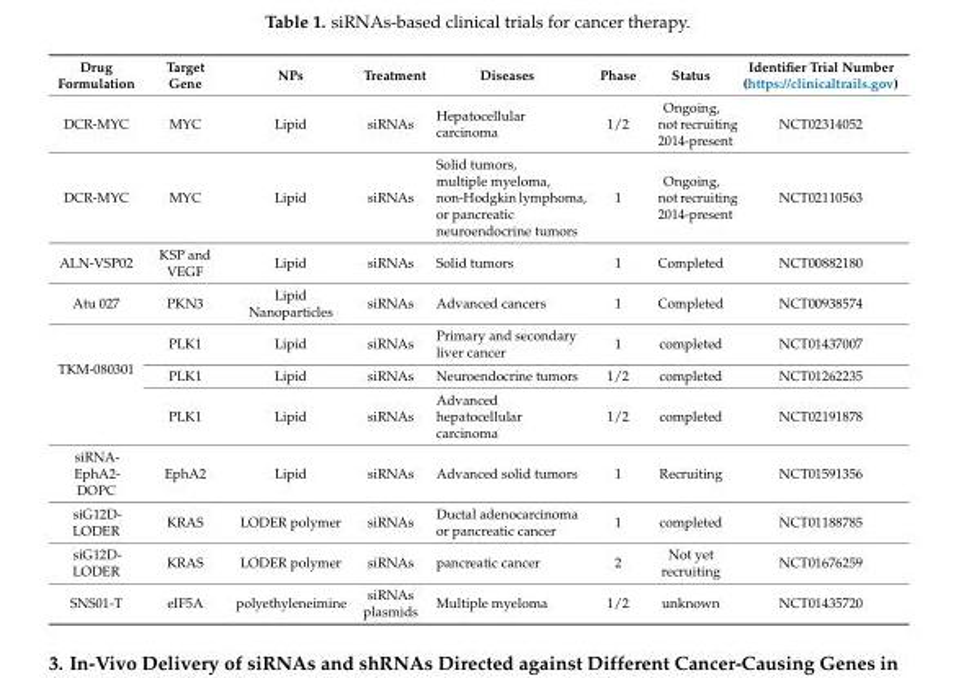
<table><thead><tr><td>Drug Formulation</td><td>Target Gene</td><td>NPs</td><td>Treatment</td><td>Diseases</td><td>Phase</td><td>Status</td><td>Identifier Trial Number (https://clinicaltrails.gov)</td></tr></thead><tbody><tr><td>DCR-MYC</td><td>MYC</td><td>Lipid</td><td>siRNAs</td><td>Hepatocellular carcinoma</td><td>1/2</td><td>Ongoing, not recruiting 2014-present</td><td>NCT02314052</td></tr><tr><td>DCR-MYC</td><td>MYC</td><td>Lipid</td><td>siRNAs</td><td>Solid tumors, multiple myeloma, non-Hodgkin lymphoma, or pancreatic neuroendocrine tumors</td><td>1</td><td>Ongoing, not recruiting 2014-present</td><td>NCT02110563</td></tr><tr><td>ALN-VSP02</td><td>KSP and VEGF</td><td>Lipid</td><td>siRNAs</td><td>Solid tumors</td><td>1</td><td>Completed</td><td>NCT00882180</td></tr><tr><td>Atu 027</td><td>PKN3</td><td>Lipid Nanoparticles</td><td>siRNAs</td><td>Advanced cancers</td><td>1</td><td>Completed</td><td>NCT00938574</td></tr><tr><td rowspan="3">TKM-080301</td><td>PLK1</td><td>Lipid</td><td>siRNAs</td><td>Primary and secondary liver cancer</td><td>1</td><td>completed</td><td>NCT01437007</td></tr><tr><td>PLK1</td><td>Lipid</td><td>siRNAs</td><td>Neuroendocrine tumors</td><td>1/2</td><td>completed</td><td>NCT01262235</td></tr><tr><td>PLK1</td><td>Lipid</td><td>siRNAs</td><td>Advanced hepatocellular carcinoma</td><td>1/2</td><td>completed</td><td>NCT02191878</td></tr><tr><td>siRNA- EphA2- DOPC</td><td>EphA2</td><td>Lipid</td><td>siRNAs</td><td>Advanced solid tumors</td><td>1</td><td>Recruiting</td><td>NCT01591356</td></tr><tr><td>siG12D- LODER</td><td>KRAS</td><td>LODER polymer</td><td>siRNAs</td><td>Ductal adenocarcinoma or pancreatic cancer</td><td>1</td><td>completed</td><td>NCT01188785</td></tr><tr><td>siG12D- LODER</td><td>KRAS</td><td>LODER polymer</td><td>siRNAs</td><td>pancreatic cancer</td><td>2</td><td>Not yet recruiting</td><td>NCT01676259</td></tr><tr><td>SNS01-T</td><td>eIF5A</td><td>polyethyleneimine</td><td>siRNAs plasmids</td><td>Multiple myeloma</td><td>1/2</td><td>unknown</td><td>NCT01435720</td></tr></tbody></table>